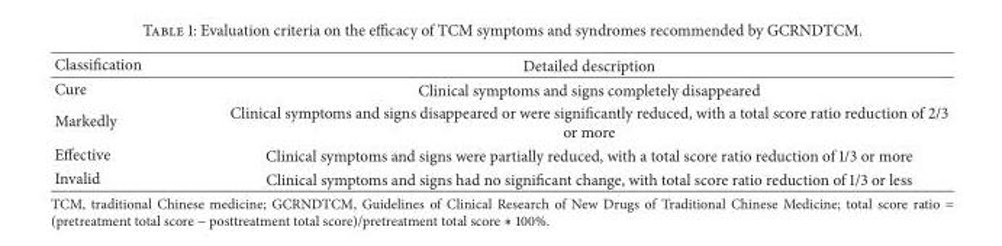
<table><thead><tr><td>Classification</td><td>Detailed description</td></tr></thead><tbody><tr><td>Cure</td><td>Clinical symptoms and signs completely disappeared</td></tr><tr><td>Markedly</td><td>Clinical symptoms and signs disappeared or were significantly reduced, with a total score ratio reduction of 2/3 or more</td></tr><tr><td>Effective</td><td>Clinical symptoms and signs were partially reduced, with a total score ratio reduction of 1/3 or more</td></tr><tr><td>Invalid</td><td>Clinical symptoms and signs had no significant change, with total score ratio reduction of 1/3 or less</td></tr></tbody></table>